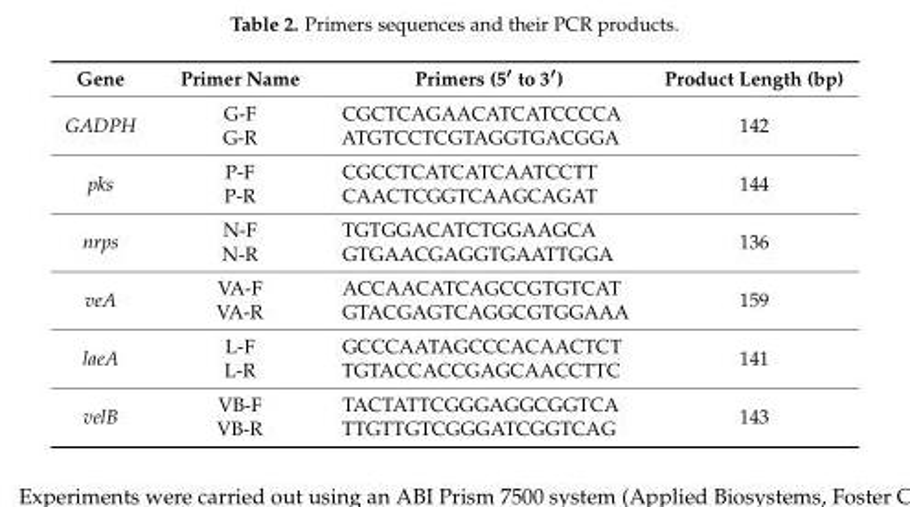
<table><thead><tr><td>Gene</td><td>Primer Name</td><td>Primers (5′ to 3′)</td><td>Product Length (bp)</td></tr></thead><tbody><tr><td>GADPH</td><td>G-F G-R</td><td>CGCTCAGAACATCATCCCCA ATGTCCTCGTAGGTGACGGA</td><td>142</td></tr><tr><td>pks</td><td>P-F P-R</td><td>CGCCTCATCATCAATCCTT CAACTCGGTCAAGCAGAT</td><td>144</td></tr><tr><td>nrps</td><td>N-F N-R</td><td>TGTGGACATCTGGAAGCA GTGAACGAGGTGAATTGGA</td><td>136</td></tr><tr><td>veA</td><td>VA-F VA-R</td><td>ACCAACATCAGCCGTGTCAT GTACGAGTCAGGCGTGGAAA</td><td>159</td></tr><tr><td>laeA</td><td>L-F L-R</td><td>GCCCAATAGCCCACAACTCT TGTACCACCGAGCAACCTTC</td><td>141</td></tr><tr><td>velB</td><td>VB-F VB-R</td><td>TACTATTCGGGAGGCGGTCA TTGTTGTCGGGATCGGTCAG</td><td>143</td></tr></tbody></table>